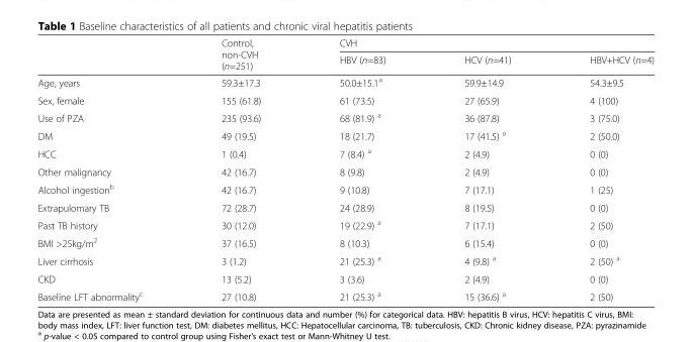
<table><thead><tr><td rowspan="2"></td><td rowspan="2">Control, non-CVH (n=251)</td><td colspan="3">CVH</td></tr><tr><td>HBV (n=83)</td><td>HCV (n=41)</td><td>HBV+HCV (n=4)</td></tr></thead><tbody><tr><td>Age, years</td><td>59.3±17.3</td><td>50.0±15.1<sup>a</sup></td><td>59.9±14.9</td><td>54.3±9.5</td></tr><tr><td>Sex, female</td><td>155 (61.8)</td><td>61 (73.5)</td><td>27 (65.9)</td><td>4 (100)</td></tr><tr><td>Use of PZA</td><td>235 (93.6)</td><td>68 (81.9) <sup>a</sup></td><td>36 (87.8)</td><td>3 (75.0)</td></tr><tr><td>DM</td><td>49 (19.5)</td><td>18 (21.7)</td><td>17 (41.5) <sup>a</sup></td><td>2 (50.0)</td></tr><tr><td>HCC</td><td>1 (0.4)</td><td>7 (8.4) <sup>a</sup></td><td>2 (4.9)</td><td>0 (0)</td></tr><tr><td>Other malignancy</td><td>42 (16.7)</td><td>8 (9.8)</td><td>2 (4.9)</td><td>0 (0)</td></tr><tr><td>Alcohol ingestion<sup>b</sup></td><td>42 (16.7)</td><td>9 (10.8)</td><td>7 (17.1)</td><td>1 (25)</td></tr><tr><td>Extrapulomary TB</td><td>72 (28.7)</td><td>24 (28.9)</td><td>8 (19.5)</td><td>0 (0)</td></tr><tr><td>Past TB history</td><td>30 (12.0)</td><td>19 (22.9) <sup>a</sup></td><td>7 (17.1)</td><td>2 (50)</td></tr><tr><td>BMI &gt;25kg/m<sup>2</sup></td><td>37 (16.5)</td><td>8 (10.3)</td><td>6 (15.4)</td><td>0 (0)</td></tr><tr><td>Liver cirrhosis</td><td>3 (1.2)</td><td>21 (25.3) <sup>a</sup></td><td>4 (9.8) <sup>a</sup></td><td>2 (50) <sup>a</sup></td></tr><tr><td>CKD</td><td>13 (5.2)</td><td>3 (3.6)</td><td>2 (4.9)</td><td>0 (0)</td></tr><tr><td>Baseline LFT abnormality<sup>c</sup></td><td>27 (10.8)</td><td>21 (25.3) <sup>a</sup></td><td>15 (36.6) <sup>a</sup></td><td>2 (50)</td></tr></tbody></table>